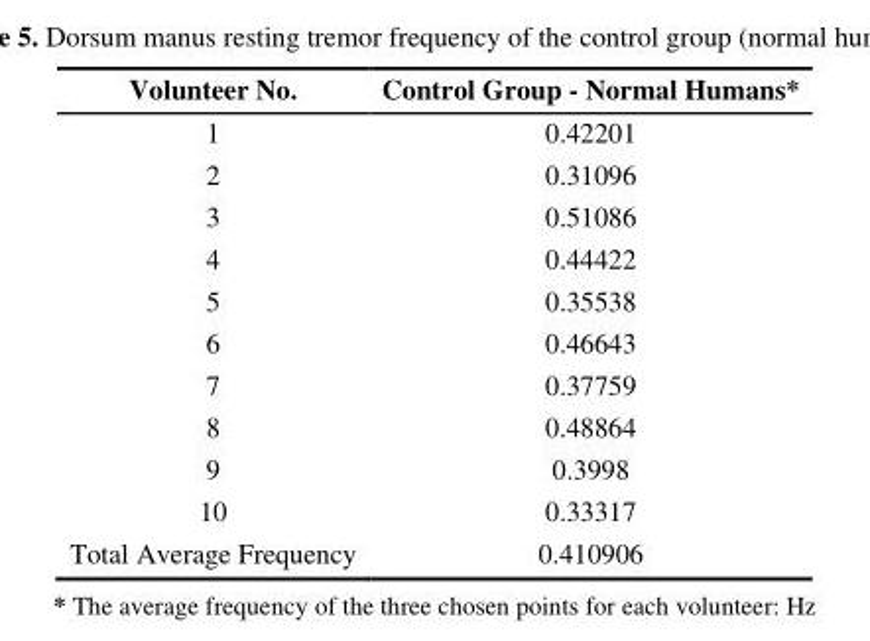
<table><thead><tr><td>Volunteer No.</td><td>Control Group - Normal Humans*</td></tr></thead><tbody><tr><td>1</td><td>0.42201</td></tr><tr><td>2</td><td>0.31096</td></tr><tr><td>3</td><td>0.51086</td></tr><tr><td>4</td><td>0.44422</td></tr><tr><td>5</td><td>0.35538</td></tr><tr><td>6</td><td>0.46643</td></tr><tr><td>7</td><td>0.37759</td></tr><tr><td>8</td><td>0.48864</td></tr><tr><td>9</td><td>0.3998</td></tr><tr><td>10</td><td>0.33317</td></tr><tr><td>Total Average Frequency</td><td>0.410906</td></tr></tbody></table>